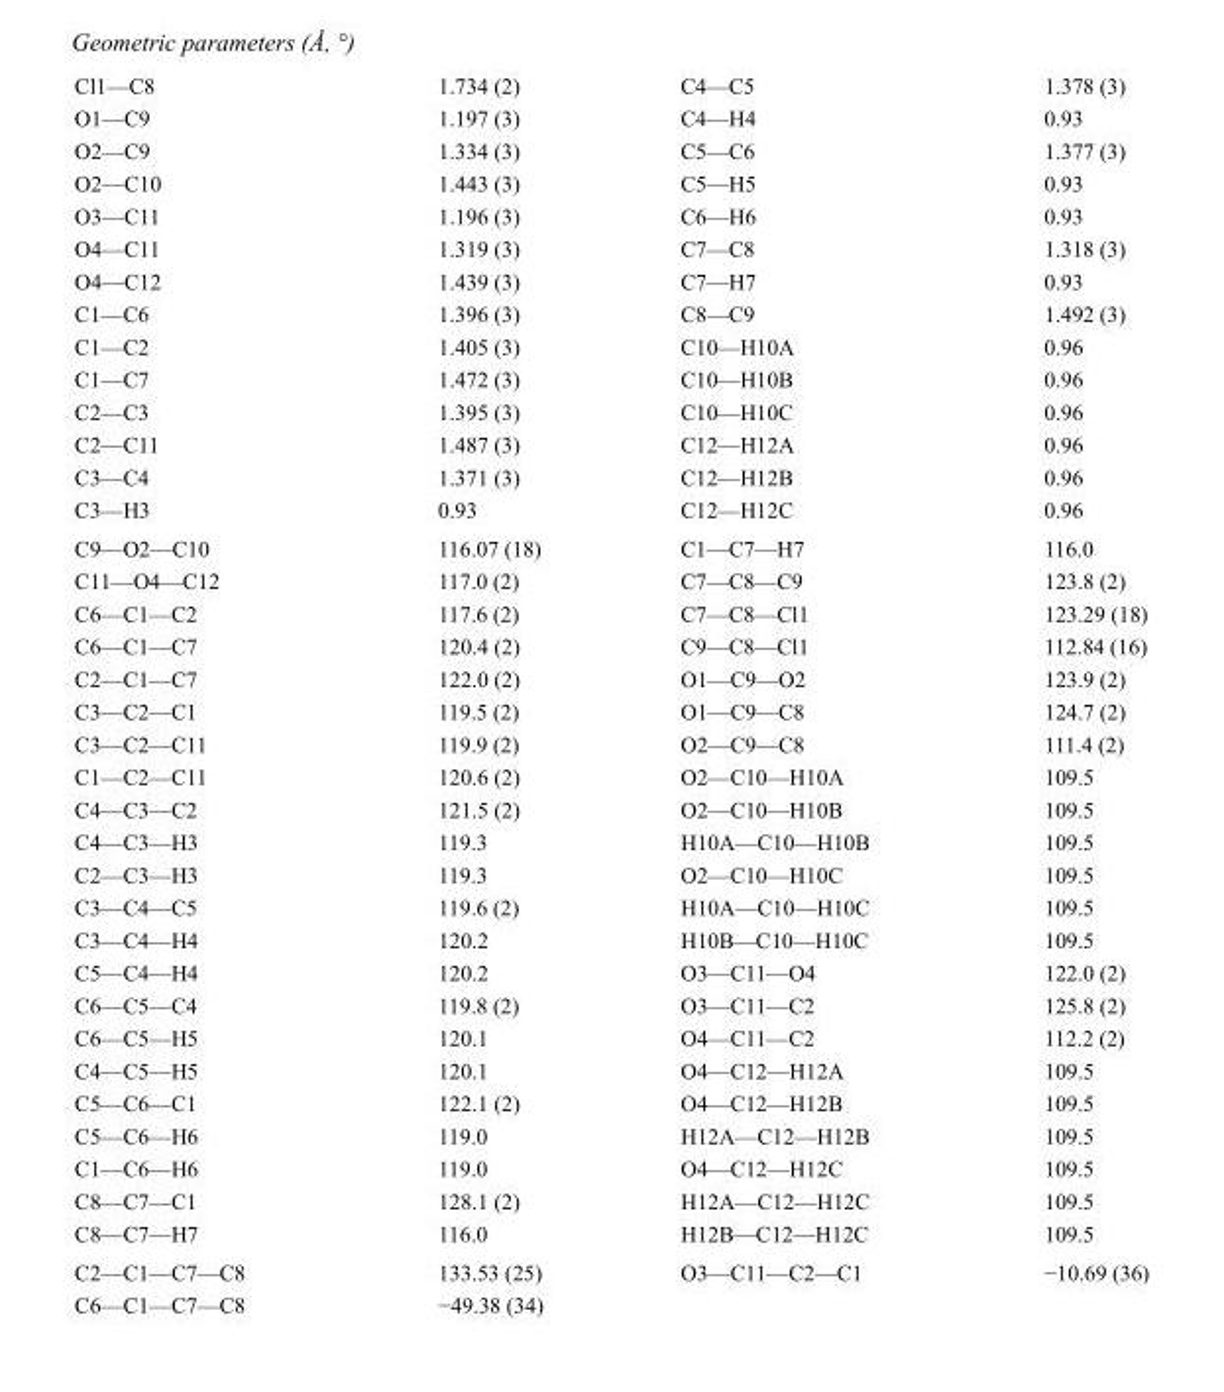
<table><tbody><tr><td>Cl1—C8</td><td>1.734 (2)</td><td>C4—C5</td><td>1.378 (3)</td></tr><tr><td>O1—C9</td><td>1.197 (3)</td><td>C4—H4</td><td>0.93</td></tr><tr><td>O2—C9</td><td>1.334 (3)</td><td>C5—C6</td><td>1.377 (3)</td></tr><tr><td>O2—C10</td><td>1.443 (3)</td><td>C5—H5</td><td>0.93</td></tr><tr><td>O3—C11</td><td>1.196 (3)</td><td>C6—H6</td><td>0.93</td></tr><tr><td>O4—C11</td><td>1.319 (3)</td><td>C7—C8</td><td>1.318 (3)</td></tr><tr><td>O4—C12</td><td>1.439 (3)</td><td>C7—H7</td><td>0.93</td></tr><tr><td>C1—C6</td><td>1.396 (3)</td><td>C8—C9</td><td>1.492 (3)</td></tr><tr><td>C1—C2</td><td>1.405 (3)</td><td>C10—H10A</td><td>0.96</td></tr><tr><td>C1—C7</td><td>1.472 (3)</td><td>C10—H10B</td><td>0.96</td></tr><tr><td>C2—C3</td><td>1.395 (3)</td><td>C10—H10C</td><td>0.96</td></tr><tr><td>C2—C11</td><td>1.487 (3)</td><td>C12—H12A</td><td>0.96</td></tr><tr><td>C3—C4</td><td>1.371 (3)</td><td>C12—H12B</td><td>0.96</td></tr><tr><td>C3—H3</td><td>0.93</td><td>C12—H12C</td><td>0.96</td></tr><tr><td>C9—O2—C10</td><td>116.07 (18)</td><td>C1—C7—H7</td><td>116.0</td></tr><tr><td>C11—O4—C12</td><td>117.0 (2)</td><td>C7—C8—C9</td><td>123.8 (2)</td></tr><tr><td>C6—C1—C2</td><td>117.6 (2)</td><td>C7—C8—Cl1</td><td>123.29 (18)</td></tr><tr><td>C6—C1—C7</td><td>120.4 (2)</td><td>C9—C8—Cl1</td><td>112.84 (16)</td></tr><tr><td>C2—C1—C7</td><td>122.0 (2)</td><td>O1—C9—O2</td><td>123.9 (2)</td></tr><tr><td>C3—C2—C1</td><td>119.5 (2)</td><td>O1—C9—C8</td><td>124.7 (2)</td></tr><tr><td>C3—C2—C11</td><td>119.9 (2)</td><td>O2—C9—C8</td><td>111.4 (2)</td></tr><tr><td>C1—C2—C11</td><td>120.6 (2)</td><td>O2—C10—H10A</td><td>109.5</td></tr><tr><td>C4—C3—C2</td><td>121.5 (2)</td><td>O2—C10—H10B</td><td>109.5</td></tr><tr><td>C4—C3—H3</td><td>119.3</td><td>H10A—C10—H10B</td><td>109.5</td></tr><tr><td>C2—C3—H3</td><td>119.3</td><td>O2—C10—H10C</td><td>109.5</td></tr><tr><td>C3—C4—C5</td><td>119.6 (2)</td><td>H10A—C10—H10C</td><td>109.5</td></tr><tr><td>C3—C4—H4</td><td>120.2</td><td>H10B—C10—H10C</td><td>109.5</td></tr><tr><td>C5—C4—H4</td><td>120.2</td><td>O3—C11—O4</td><td>122.0 (2)</td></tr><tr><td>C6—C5—C4</td><td>119.8 (2)</td><td>O3—C11—C2</td><td>125.8 (2)</td></tr><tr><td>C6—C5—H5</td><td>120.1</td><td>O4—C11—C2</td><td>112.2 (2)</td></tr><tr><td>C4—C5—H5</td><td>120.1</td><td>O4—C12—H12A</td><td>109.5</td></tr><tr><td>C5—C6—C1</td><td>122.1 (2)</td><td>O4—C12—H12B</td><td>109.5</td></tr><tr><td>C5—C6—H6</td><td>119.0</td><td>H12A—C12—H12B</td><td>109.5</td></tr><tr><td>C1—C6—H6</td><td>119.0</td><td>O4—C12—H12C</td><td>109.5</td></tr><tr><td>C8—C7—C1</td><td>128.1 (2)</td><td>H12A—C12—H12C</td><td>109.5</td></tr><tr><td>C8—C7—H7</td><td>116.0</td><td>H12B—C12—H12C</td><td>109.5</td></tr><tr><td>C2—C1—C7—C8</td><td>133.53 (25)</td><td>O3—C11—C2—C1</td><td>−10.69 (36)</td></tr><tr><td>C6—C1—C7—C8</td><td>−49.38 (34)</td><td></td><td></td></tr></tbody></table>